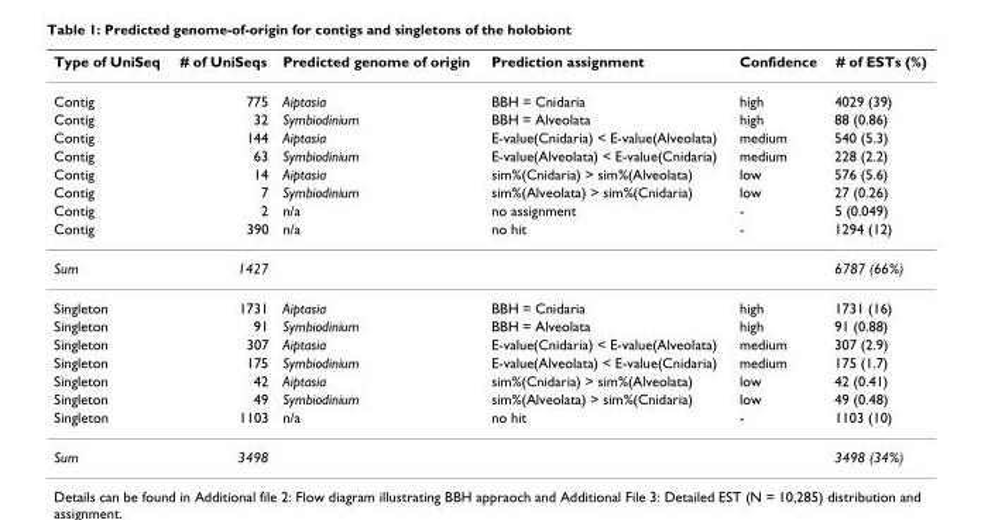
<table><thead><tr><td>Type of UniSeq</td><td># of UniSeqs</td><td>Predicted genome of origin</td><td>Prediction assignment</td><td>Confidence</td><td># of ESTs (%)</td></tr></thead><tbody><tr><td>Contig</td><td>775</td><td>Aiptasia</td><td>BBH = Cnidaria</td><td>high</td><td>4029 (39)</td></tr><tr><td>Contig</td><td>32</td><td>Symbiodinium</td><td>BBH = Alveolata</td><td>high</td><td>88 (0.86)</td></tr><tr><td>Contig</td><td>144</td><td>Aiptasia</td><td>E-value(Cnidaria) &lt; E-value(Alveolata)</td><td>medium</td><td>540 (5.3)</td></tr><tr><td>Contig</td><td>63</td><td>Symbiodinium</td><td>E-value(Alveolata) &lt; E-value(Cnidaria)</td><td>medium</td><td>228 (2.2)</td></tr><tr><td>Contig</td><td>14</td><td>Aiptasia</td><td>sim%(Cnidaria) &gt; sim%(Alveolata)</td><td>low</td><td>576 (5.6)</td></tr><tr><td>Contig</td><td>7</td><td>Symbiodinium</td><td>sim%(Alveolata) &gt; sim%(Cnidaria)</td><td>low</td><td>27 (0.26)</td></tr><tr><td>Contig</td><td>2</td><td>n/a</td><td>no assignment</td><td>-</td><td>5 (0.049)</td></tr><tr><td>Contig</td><td>390</td><td>n/a</td><td>no hit</td><td>-</td><td>1294 (12)</td></tr><tr><td>Sum</td><td>1427</td><td></td><td></td><td></td><td>6787 (66%)</td></tr><tr><td>Singleton</td><td>1731</td><td>Aiptasia</td><td>BBH = Cnidaria</td><td>high</td><td>1731 (16)</td></tr><tr><td>Singleton</td><td>91</td><td>Symbiodinium</td><td>BBH = Alveolata</td><td>high</td><td>91 (0.88)</td></tr><tr><td>Singleton</td><td>307</td><td>Aiptasia</td><td>E-value(Cnidaria) &lt; E-value(Alveolata)</td><td>medium</td><td>307 (2.9)</td></tr><tr><td>Singleton</td><td>175</td><td>Symbiodinium</td><td>E-value(Alveolata) &lt; E-value(Cnidaria)</td><td>medium</td><td>175 (1.7)</td></tr><tr><td>Singleton</td><td>42</td><td>Aiptasia</td><td>sim%(Cnidaria) &gt; sim%(Alveolata)</td><td>low</td><td>42 (0.41)</td></tr><tr><td>Singleton</td><td>49</td><td>Symbiodinium</td><td>sim%(Alveolata) &gt; sim%(Cnidaria)</td><td>low</td><td>49 (0.48)</td></tr><tr><td>Singleton</td><td>1103</td><td>n/a</td><td>no hit</td><td>-</td><td>1103 (10)</td></tr><tr><td>Sum</td><td>3498</td><td></td><td></td><td></td><td>3498 (34%)</td></tr></tbody></table>